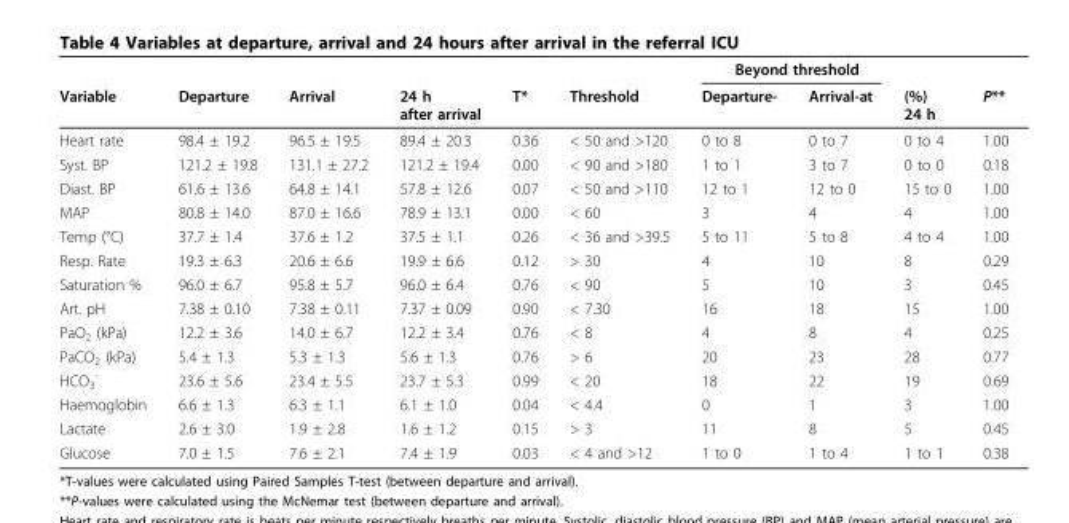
<table><thead><tr><td rowspan="2">Variable</td><td rowspan="2">Departure</td><td rowspan="2">Arrival</td><td rowspan="2">24 h after arrival</td><td rowspan="2">T*</td><td rowspan="2">Threshold</td><td colspan="2">Beyond threshold</td><td rowspan="2">(%) 24 h</td><td rowspan="2">P**</td></tr><tr><td>Departure-</td><td>Arrival-at</td></tr></thead><tbody><tr><td>Heart rate</td><td>98.4 ± 19.2</td><td>96.5 ± 19.5</td><td>89.4 ± 20.3</td><td>0.36</td><td>&lt; 50 and &gt;120</td><td>0 to 8</td><td>0 to 7</td><td>0 to 4</td><td>1.00</td></tr><tr><td>Syst. BP</td><td>121.2 ± 19.8</td><td>131.1 ± 27.2</td><td>121.2 ± 19.4</td><td>0.00</td><td>&lt; 90 and &gt;180</td><td>1 to 1</td><td>3 to 7</td><td>0 to 0</td><td>0.18</td></tr><tr><td>Diast. BP</td><td>61.6 ± 13.6</td><td>64.8 ± 14.1</td><td>57.8 ± 12.6</td><td>0.07</td><td>&lt; 50 and &gt;110</td><td>12 to 1</td><td>12 to 0</td><td>15 to 0</td><td>1.00</td></tr><tr><td>MAP</td><td>80.8 ± 14.0</td><td>87.0 ± 16.6</td><td>78.9 ± 13.1</td><td>0.00</td><td>&lt; 60</td><td>3</td><td>4</td><td>4</td><td>1.00</td></tr><tr><td>Temp (°C)</td><td>37.7 ± 1.4</td><td>37.6 ± 1.2</td><td>37.5 ± 1.1</td><td>0.26</td><td>&lt; 36 and &gt;39.5</td><td>5 to 11</td><td>5 to 8</td><td>4 to 4</td><td>1.00</td></tr><tr><td>Resp. Rate</td><td>19.3 ± 6.3</td><td>20.6 ± 6.6</td><td>19.9 ± 6.6</td><td>0.12</td><td>&gt; 30</td><td>4</td><td>10</td><td>8</td><td>0.29</td></tr><tr><td>Saturation %</td><td>96.0 ± 6.7</td><td>95.8 ± 5.7</td><td>96.0 ± 6.4</td><td>0.76</td><td>&lt; 90</td><td>5</td><td>10</td><td>3</td><td>0.45</td></tr><tr><td>Art. pH</td><td>7.38 ± 0.10</td><td>7.38 ± 0.11</td><td>7.37 ± 0.09</td><td>0.90</td><td>&lt; 7.30</td><td>16</td><td>18</td><td>15</td><td>1.00</td></tr><tr><td>PaO<sub>2</sub> (kPa)</td><td>12.2 ± 3.6</td><td>14.0 ± 6.7</td><td>12.2 ± 3.4</td><td>0.76</td><td>&lt; 8</td><td>4</td><td>8</td><td>4</td><td>0.25</td></tr><tr><td>PaCO<sub>2</sub> (kPa)</td><td>5.4 ± 1.3</td><td>5.3 ± 1.3</td><td>5.6 ± 1.3</td><td>0.76</td><td>&gt; 6</td><td>20</td><td>23</td><td>28</td><td>0.77</td></tr><tr><td>HCO<sub>3</sub> <sup>-</sup></td><td>23.6 ± 5.6</td><td>23.4 ± 5.5</td><td>23.7 ± 5.3</td><td>0.99</td><td>&lt; 20</td><td>18</td><td>22</td><td>19</td><td>0.69</td></tr><tr><td>Haemoglobin</td><td>6.6 ± 1.3</td><td>6.3 ± 1.1</td><td>6.1 ± 1.0</td><td>0.04</td><td>&lt; 4.4</td><td>0</td><td>1</td><td>3</td><td>1.00</td></tr><tr><td>Lactate</td><td>2.6 ± 3.0</td><td>1.9 ± 2.8</td><td>1.6 ± 1.2</td><td>0.15</td><td>&gt; 3</td><td>11</td><td>8</td><td>5</td><td>0.45</td></tr><tr><td>Glucose</td><td>7.0 ± 1.5</td><td>7.6 ± 2.1</td><td>7.4 ± 1.9</td><td>0.03</td><td>&lt; 4 and &gt;12</td><td>1 to 0</td><td>1 to 4</td><td>1 to 1</td><td>0.38</td></tr></tbody></table>